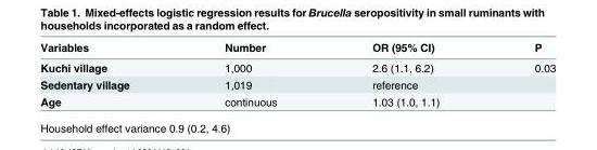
<table><thead><tr><td>Variables</td><td>Number</td><td>OR (95% CI)</td><td>P</td></tr></thead><tbody><tr><td>Kuchi village</td><td>1,000</td><td>2.6 (1.1, 6.2)</td><td>0.03</td></tr><tr><td>Sedentary village</td><td>1,019</td><td>reference</td><td></td></tr><tr><td>Age</td><td>continuous</td><td>1.03 (1.0, 1.1)</td><td></td></tr></tbody></table>